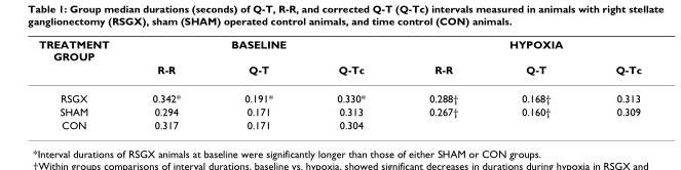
<table><thead><tr><td rowspan="2">TREATMENT GROUP</td><td colspan="3">BASELINE</td><td colspan="3">HYPOXIA</td></tr><tr><td>R-R</td><td>Q-T</td><td>Q-Tc</td><td>R-R</td><td>Q-T</td><td>Q-Tc</td></tr></thead><tbody><tr><td>RSGX</td><td>0.342*</td><td>0.191*</td><td>0.330*</td><td>0.288†</td><td>0.168†</td><td>0.313</td></tr><tr><td>SHAM</td><td>0.294</td><td>0.171</td><td>0.313</td><td>0.267†</td><td>0.160†</td><td>0.309</td></tr><tr><td>CON</td><td>0.317</td><td>0.171</td><td>0.304</td><td></td><td></td><td></td></tr></tbody></table>